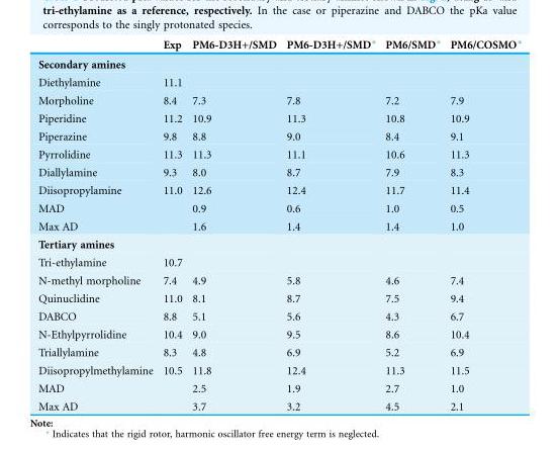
<table><thead><tr><td></td><td>Exp</td><td>PM6-D3H+/SMD</td><td>PM6-D3H+/SMD*</td><td>PM6/SMD*</td><td>PM6/COSMO*</td></tr></thead><tbody><tr><td colspan="6">Secondary amines</td></tr><tr><td>Diethylamine</td><td>11.1</td><td></td><td></td><td></td><td></td></tr><tr><td>Morpholine</td><td>8.4</td><td>7.3</td><td>7.8</td><td>7.2</td><td>7.9</td></tr><tr><td>Piperidine</td><td>11.2</td><td>10.9</td><td>11.3</td><td>10.8</td><td>10.9</td></tr><tr><td>Piperazine</td><td>9.8</td><td>8.8</td><td>9.0</td><td>8.4</td><td>9.1</td></tr><tr><td>Pyrrolidine</td><td>11.3</td><td>11.3</td><td>11.1</td><td>10.6</td><td>11.3</td></tr><tr><td>Diallylamine</td><td>9.3</td><td>8.0</td><td>8.7</td><td>7.9</td><td>8.3</td></tr><tr><td>Diisopropylamine</td><td>11.0</td><td>12.6</td><td>12.4</td><td>11.7</td><td>11.4</td></tr><tr><td>MAD</td><td></td><td>0.9</td><td>0.6</td><td>1.0</td><td>0.5</td></tr><tr><td>Max AD</td><td></td><td>1.6</td><td>1.4</td><td>1.4</td><td>1.0</td></tr><tr><td colspan="6">Tertiary amines</td></tr><tr><td>Tri-ethylamine</td><td>10.7</td><td></td><td></td><td></td><td></td></tr><tr><td>N-methyl morpholine</td><td>7.4</td><td>4.9</td><td>5.8</td><td>4.6</td><td>7.4</td></tr><tr><td>Quinuclidine</td><td>11.0</td><td>8.1</td><td>8.7</td><td>7.5</td><td>9.4</td></tr><tr><td>DABCO</td><td>8.8</td><td>5.1</td><td>5.6</td><td>4.3</td><td>6.7</td></tr><tr><td>N-Ethylpyrrolidine</td><td>10.4</td><td>9.0</td><td>9.5</td><td>8.6</td><td>10.4</td></tr><tr><td>Triallylamine</td><td>8.3</td><td>4.8</td><td>6.9</td><td>5.2</td><td>6.9</td></tr><tr><td>Diisopropylmethylamine</td><td>10.5</td><td>11.8</td><td>12.4</td><td>11.3</td><td>11.5</td></tr><tr><td>MAD</td><td></td><td>2.5</td><td>1.9</td><td>2.7</td><td>1.0</td></tr><tr><td>Max AD</td><td></td><td>3.7</td><td>3.2</td><td>4.5</td><td>2.1</td></tr></tbody></table>